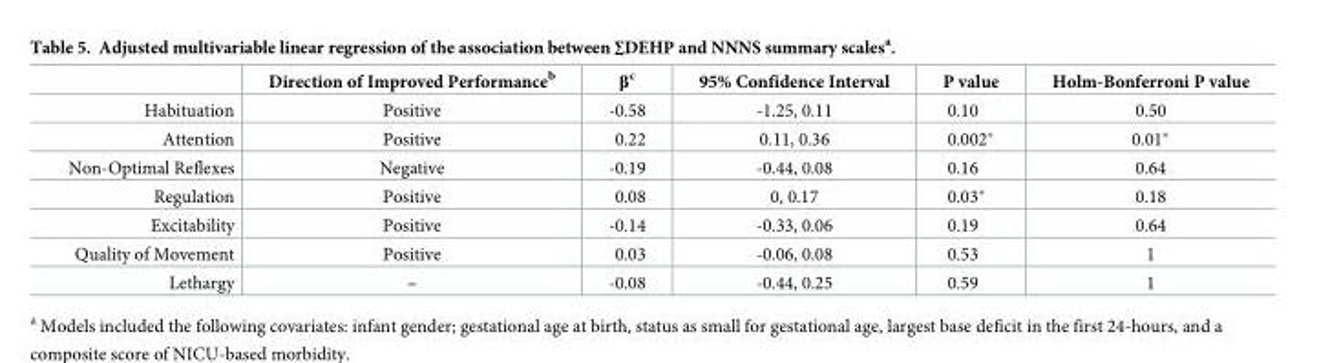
<table><thead><tr><td></td><td>Direction of Improved Performance<sup>b</sup></td><td>β<sup>c</sup></td><td>95% Confidence Interval</td><td>P value</td><td>Holm-Bonferroni P value</td></tr></thead><tbody><tr><td>Habituation</td><td>Positive</td><td>-0.58</td><td>-1.25, 0.11</td><td>0.10</td><td>0.50</td></tr><tr><td>Attention</td><td>Positive</td><td>0.22</td><td>0.11, 0.36</td><td>0.002*</td><td>0.01*</td></tr><tr><td>Non-Optimal Reflexes</td><td>Negative</td><td>-0.19</td><td>-0.44, 0.08</td><td>0.16</td><td>0.64</td></tr><tr><td>Regulation</td><td>Positive</td><td>0.08</td><td>0, 0.17</td><td>0.03*</td><td>0.18</td></tr><tr><td>Excitability</td><td>Positive</td><td>-0.14</td><td>-0.33, 0.06</td><td>0.19</td><td>0.64</td></tr><tr><td>Quality of Movement</td><td>Positive</td><td>0.03</td><td>-0.06, 0.08</td><td>0.53</td><td>1</td></tr><tr><td>Lethargy</td><td>–</td><td>-0.08</td><td>-0.44, 0.25</td><td>0.59</td><td>1</td></tr></tbody></table>